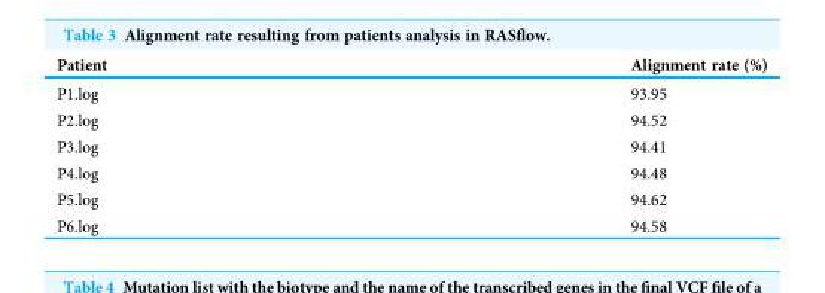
<table><thead><tr><td>Patient</td><td>Alignment rate (%)</td></tr></thead><tbody><tr><td>P1.log</td><td>93.95</td></tr><tr><td>P2.log</td><td>94.52</td></tr><tr><td>P3.log</td><td>94.41</td></tr><tr><td>P4.log</td><td>94.48</td></tr><tr><td>P5.log</td><td>94.62</td></tr><tr><td>P6.log</td><td>94.58</td></tr></tbody></table>